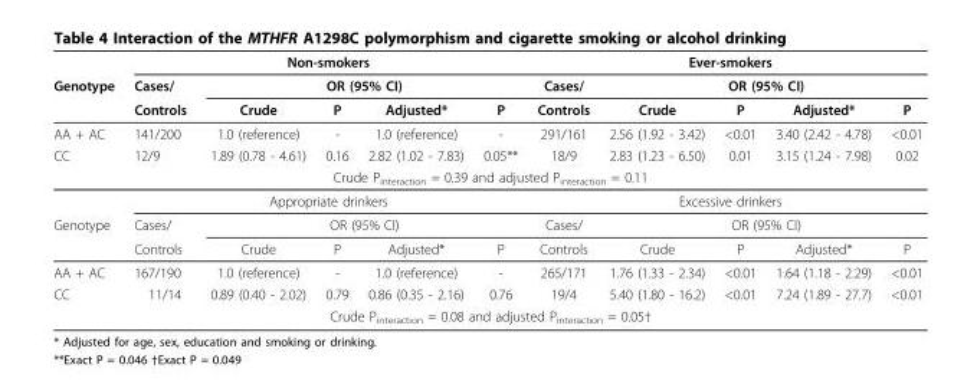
<table><thead><tr><td rowspan="3">Genotype</td><td colspan="5">Non-smokers</td><td colspan="5">Ever-smokers</td></tr><tr><td rowspan="2">Cases/ Controls</td><td colspan="4">OR (95% CI)</td><td rowspan="2">Cases/ Controls</td><td colspan="4">OR (95% CI)</td></tr><tr><td>Crude</td><td>P</td><td>Adjusted*</td><td>P</td><td>Crude</td><td>P</td><td>Adjusted*</td><td>P</td></tr></thead><tbody><tr><td>AA + AC</td><td>141/200</td><td>1.0 (reference)</td><td>-</td><td>1.0 (reference)</td><td>-</td><td>291/161</td><td>2.56 (1.92 - 3.42)</td><td>&lt;0.01</td><td>3.40 (2.42 - 4.78)</td><td>&lt;0.01</td></tr><tr><td>CC</td><td>12/9</td><td>1.89 (0.78 - 4.61)</td><td>0.16</td><td>2.82 (1.02 - 7.83)</td><td>0.05**</td><td>18/9</td><td>2.83 (1.23 - 6.50)</td><td>0.01</td><td>3.15 (1.24 - 7.98)</td><td>0.02</td></tr><tr><td colspan="11">Crude Pinteraction = 0.39 and adjusted Pinteraction = 0.11</td></tr><tr><td></td><td colspan="5">Appropriate drinkers</td><td colspan="5">Excessive drinkers</td></tr><tr><td rowspan="2">Genotype</td><td>Cases/</td><td colspan="4">OR (95% CI)</td><td>Cases/</td><td colspan="4">OR (95% CI)</td></tr><tr><td>Controls</td><td>Crude</td><td>P</td><td>Adjusted*</td><td>P</td><td>Controls</td><td>Crude</td><td>P</td><td>Adjusted*</td><td>P</td></tr><tr><td>AA + AC</td><td>167/190</td><td>1.0 (reference)</td><td>-</td><td>1.0 (reference)</td><td>-</td><td>265/171</td><td>1.76 (1.33 - 2.34)</td><td>&lt;0.01</td><td>1.64 (1.18 - 2.29)</td><td>&lt;0.01</td></tr><tr><td>CC</td><td>11/14</td><td>0.89 (0.40 - 2.02)</td><td>0.79</td><td>0.86 (0.35 - 2.16)</td><td>0.76</td><td>19/4</td><td>5.40 (1.80 - 16.2)</td><td>&lt;0.01</td><td>7.24 (1.89 - 27.7)</td><td>&lt;0.01</td></tr><tr><td colspan="11">Crude Pinteraction = 0.08 and adjusted Pinteraction = 0.05†</td></tr></tbody></table>